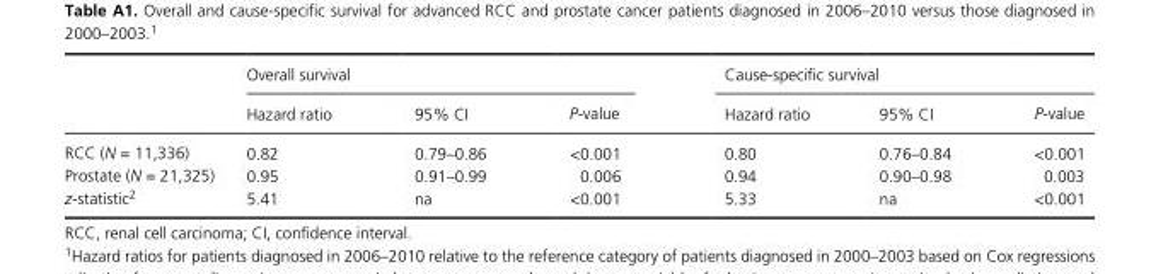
<table><thead><tr><td rowspan="2"></td><td colspan="3">Overall survival</td><td colspan="3">Cause- specific survival</td></tr><tr><td>Hazard ratio</td><td>95% CI</td><td>P- value</td><td>Hazard ratio</td><td>95% CI</td><td>P- value</td></tr></thead><tbody><tr><td>RCC (N = 11,336)</td><td>0.82</td><td>0.79–0.86</td><td>&lt;0.001</td><td>0.80</td><td>0.76–0.84</td><td>&lt;0.001</td></tr><tr><td>Prostate (N = 21,325)</td><td>0.95</td><td>0.91–0.99</td><td>0.006</td><td>0.94</td><td>0.90–0.98</td><td>0.003</td></tr><tr><td>z- statistic2</td><td>5.41</td><td>na</td><td>&lt;0.001</td><td>5.33</td><td>na</td><td>&lt;0.001</td></tr></tbody></table>